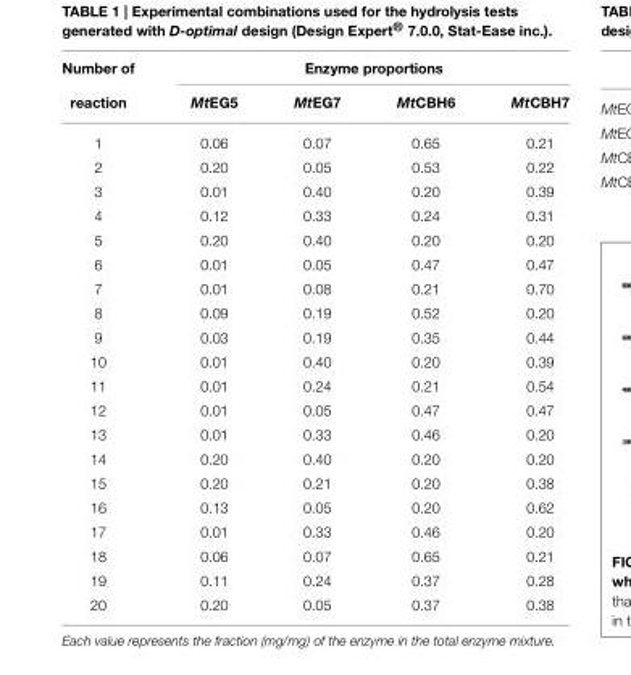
<table><thead><tr><td rowspan="2">Number of reaction</td><td colspan="4">Enzyme proportions</td></tr><tr><td>MtEG5</td><td>MtEG7</td><td>MtCBH6</td><td>MtCBH7</td></tr></thead><tbody><tr><td>1</td><td>0.06</td><td>0.07</td><td>0.65</td><td>0.21</td></tr><tr><td>2</td><td>0.20</td><td>0.05</td><td>0.53</td><td>0.22</td></tr><tr><td>3</td><td>0.01</td><td>0.40</td><td>0.20</td><td>0.39</td></tr><tr><td>4</td><td>0.12</td><td>0.33</td><td>0.24</td><td>0.31</td></tr><tr><td>5</td><td>0.20</td><td>0.40</td><td>0.20</td><td>0.20</td></tr><tr><td>6</td><td>0.01</td><td>0.05</td><td>0.47</td><td>0.47</td></tr><tr><td>7</td><td>0.01</td><td>0.08</td><td>0.21</td><td>0.70</td></tr><tr><td>8</td><td>0.09</td><td>0.19</td><td>0.52</td><td>0.20</td></tr><tr><td>9</td><td>0.03</td><td>0.19</td><td>0.35</td><td>0.44</td></tr><tr><td>10</td><td>0.01</td><td>0.40</td><td>0.20</td><td>0.39</td></tr><tr><td>11</td><td>0.01</td><td>0.24</td><td>0.21</td><td>0.54</td></tr><tr><td>12</td><td>0.01</td><td>0.05</td><td>0.47</td><td>0.47</td></tr><tr><td>13</td><td>0.01</td><td>0.33</td><td>0.46</td><td>0.20</td></tr><tr><td>14</td><td>0.20</td><td>0.40</td><td>0.20</td><td>0.20</td></tr><tr><td>15</td><td>0.20</td><td>0.21</td><td>0.20</td><td>0.38</td></tr><tr><td>16</td><td>0.13</td><td>0.05</td><td>0.20</td><td>0.62</td></tr><tr><td>17</td><td>0.01</td><td>0.33</td><td>0.46</td><td>0.20</td></tr><tr><td>18</td><td>0.06</td><td>0.07</td><td>0.65</td><td>0.21</td></tr><tr><td>19</td><td>0.11</td><td>0.24</td><td>0.37</td><td>0.28</td></tr><tr><td>20</td><td>0.20</td><td>0.05</td><td>0.37</td><td>0.38</td></tr></tbody></table>